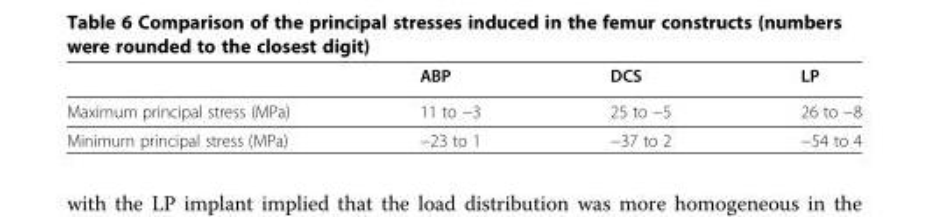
<table><thead><tr><td></td><td>ABP</td><td>DCS</td><td>LP</td></tr></thead><tbody><tr><td>Maximum principal stress (MPa)</td><td>11 to −3</td><td>25 to −5</td><td>26 to −8</td></tr><tr><td>Minimum principal stress (MPa)</td><td>−23 to 1</td><td>−37 to 2</td><td>−54 to 4</td></tr></tbody></table>